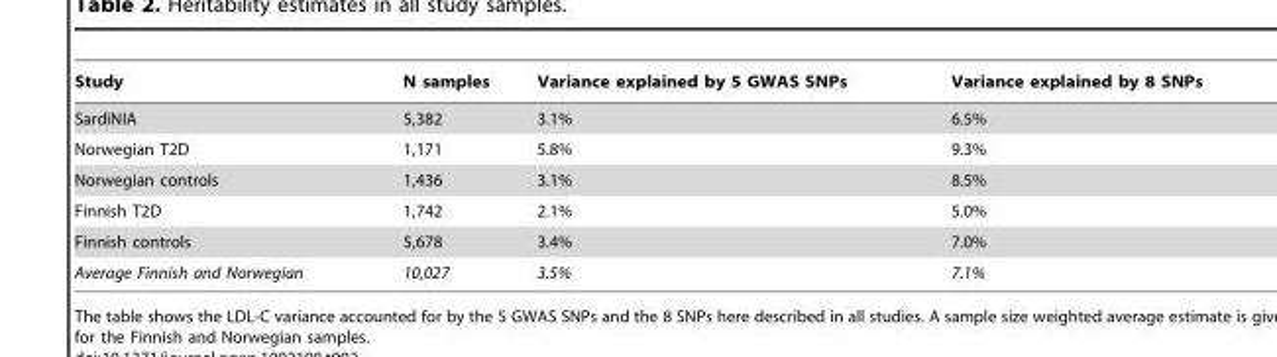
<table><thead><tr><td>Study</td><td>N samples</td><td>Variance explained by 5 GWAS SNPs</td><td>Variance explained by 8 SNPs</td></tr></thead><tbody><tr><td>SardiNIA</td><td>5,382</td><td>3.1%</td><td>6.5%</td></tr><tr><td>Norwegian T2D</td><td>1,171</td><td>5.8%</td><td>9.3%</td></tr><tr><td>Norwegian controls</td><td>1,436</td><td>3.1%</td><td>8.5%</td></tr><tr><td>Finnish T2D</td><td>1,742</td><td>2.1%</td><td>5.0%</td></tr><tr><td>Finnish controls</td><td>5,678</td><td>3.4%</td><td>7.0%</td></tr><tr><td>Average Finnish and Norwegian</td><td>10,027</td><td>3.5%</td><td>7.1%</td></tr></tbody></table>